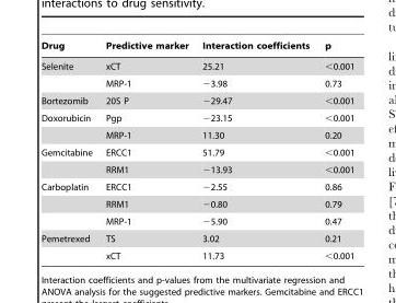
<table><thead><tr><td>Drug</td><td>Predictive marker</td><td>Interaction coefficients</td><td>p</td></tr></thead><tbody><tr><td rowspan="2">Selenite</td><td>xCT</td><td>25.21</td><td>&lt;0.001</td></tr><tr><td>MRP-1</td><td>−3.98</td><td>0.73</td></tr><tr><td>Bortezomib</td><td>20S P</td><td>−29.47</td><td>&lt;0.001</td></tr><tr><td rowspan="2">Doxorubicin</td><td>Pgp</td><td>−23.15</td><td>&lt;0.001</td></tr><tr><td>MRP-1</td><td>11.30</td><td>0.20</td></tr><tr><td rowspan="2">Gemcitabine</td><td>ERCC1</td><td>51.79</td><td>&lt;0.001</td></tr><tr><td>RRM1</td><td>−13.93</td><td>&lt;0.001</td></tr><tr><td rowspan="3">Carboplatin</td><td>ERCC1</td><td>−2.55</td><td>0.86</td></tr><tr><td>RRM1</td><td>−0.80</td><td>0.79</td></tr><tr><td>MRP-1</td><td>−5.90</td><td>0.47</td></tr><tr><td rowspan="2">Pemetrexed</td><td>TS</td><td>3.02</td><td>0.21</td></tr><tr><td>xCT</td><td>11.73</td><td>&lt;0.001</td></tr></tbody></table>